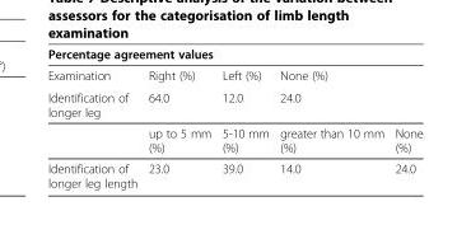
<table><thead><tr><td colspan="5">Percentage agreement values</td></tr><tr><td rowspan="3">Examination Identification of longer leg</td><td rowspan="3">Right (%) 64.0 up to 5 mm (%)</td><td rowspan="3">Left (%) 12.0 5-10 mm (%)</td><td rowspan="2" colspan="2">None (%) 24.0</td></tr><tr></tr><tr><td>greater than 10 mm (%)</td><td>None (%)</td></tr></thead><tbody><tr><td>Identification of longer leg length</td><td>23.0</td><td>39.0</td><td>14.0</td><td>24.0</td></tr></tbody></table>